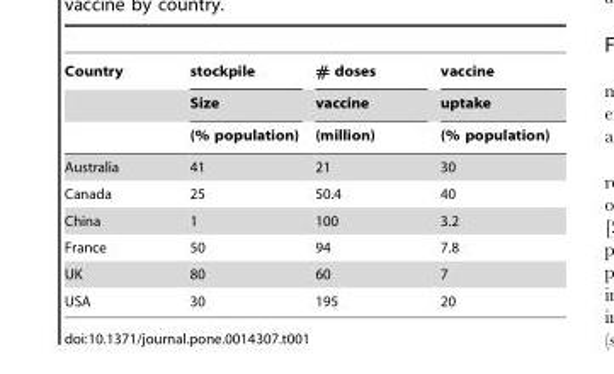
<table><thead><tr><td rowspan="3">Country</td><td rowspan="3">stockpile Size (% population)</td><td rowspan="3"># doses vaccine (million)</td><td rowspan="3">vaccine uptake (% population)</td></tr><tr></tr><tr></tr></thead><tbody><tr><td>Australia</td><td>41</td><td>21</td><td>30</td></tr><tr><td>Canada</td><td>25</td><td>50.4</td><td>40</td></tr><tr><td>China</td><td>1</td><td>100</td><td>3.2</td></tr><tr><td>France</td><td>50</td><td>94</td><td>7.8</td></tr><tr><td>UK</td><td>80</td><td>60</td><td>7</td></tr><tr><td>USA</td><td>30</td><td>195</td><td>20</td></tr></tbody></table>